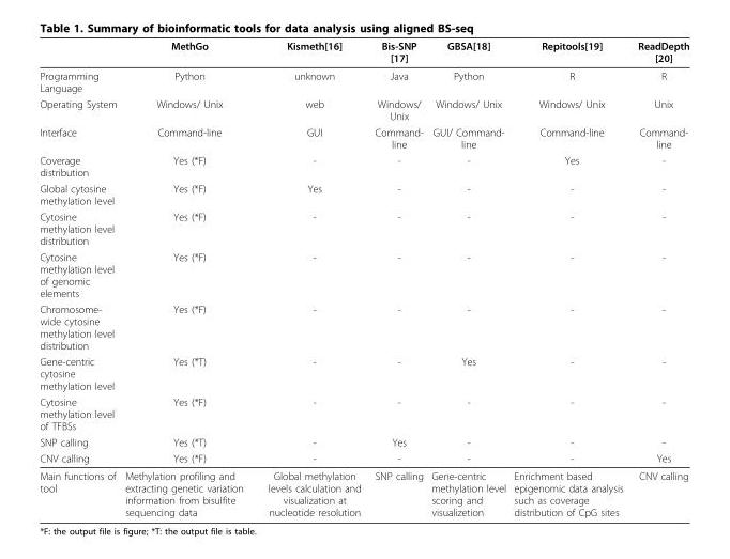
<table><thead><tr><td></td><td>MethGo</td><td>Kismeth[16]</td><td>Bis-SNP [17]</td><td>GBSA[18]</td><td>Repitools[19]</td><td>ReadDepth [20]</td></tr></thead><tbody><tr><td>Programming Language</td><td>Python</td><td>unknown</td><td>Java</td><td>Python</td><td>R</td><td>R</td></tr><tr><td>Operating System</td><td>Windows/ Unix</td><td>web</td><td>Windows/ Unix</td><td>Windows/ Unix</td><td>Windows/ Unix</td><td>Unix</td></tr><tr><td>Interface</td><td>Command-line</td><td>GUI</td><td>Command- line</td><td>GUI/ Command- line</td><td>Command-line</td><td>Command- line</td></tr><tr><td>Coverage distribution</td><td>Yes (*F)</td><td>-</td><td>-</td><td>-</td><td>Yes</td><td>-</td></tr><tr><td>Global cytosine methylation level</td><td>Yes (*F)</td><td>Yes</td><td>-</td><td>-</td><td>-</td><td>-</td></tr><tr><td>Cytosine methylation level distribution</td><td>Yes (*F)</td><td>-</td><td>-</td><td>-</td><td>-</td><td>-</td></tr><tr><td>Cytosine methylation level of genomic elements</td><td>Yes (*F)</td><td>-</td><td>-</td><td>-</td><td>-</td><td>-</td></tr><tr><td>Chromosome- wide cytosine methylation level distribution</td><td>Yes (*F)</td><td>-</td><td>-</td><td>-</td><td>-</td><td>-</td></tr><tr><td>Gene-centric cytosine methylation level</td><td>Yes (*T)</td><td>-</td><td>-</td><td>Yes</td><td>-</td><td>-</td></tr><tr><td>Cytosine methylation level of TFBSs</td><td>Yes (*F)</td><td>-</td><td>-</td><td>-</td><td>-</td><td>-</td></tr><tr><td>SNP calling</td><td>Yes (*T)</td><td>-</td><td>Yes</td><td>-</td><td>-</td><td>-</td></tr><tr><td>CNV calling</td><td>Yes (*F)</td><td>-</td><td>-</td><td>-</td><td>-</td><td>Yes</td></tr><tr><td>Main functions of tool</td><td>Methylation profiling and extracting genetic variation information from bisulfite sequencing data</td><td>Global methylation levels calculation and visualization at nucleotide resolution</td><td>SNP calling</td><td>Gene-centric methylation level scoring and visualizetion</td><td>Enrichment based epigenomic data analysis such as coverage distribution of CpG sites</td><td>CNV calling</td></tr></tbody></table>